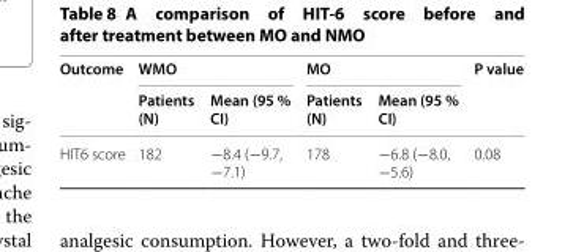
<table><thead><tr><td rowspan="2">Outcome</td><td colspan="2">WMO</td><td colspan="2">MO</td><td rowspan="2">P value</td></tr><tr><td>Patients (N)</td><td>Mean (95 % CI)</td><td>Patients (N)</td><td>Mean (95 % CI)</td></tr></thead><tbody><tr><td>HIT6 score</td><td>182</td><td>−8.4 (−9.7, −7.1)</td><td>178</td><td>−6.8 (−8.0, −5.6)</td><td>0.08</td></tr></tbody></table>